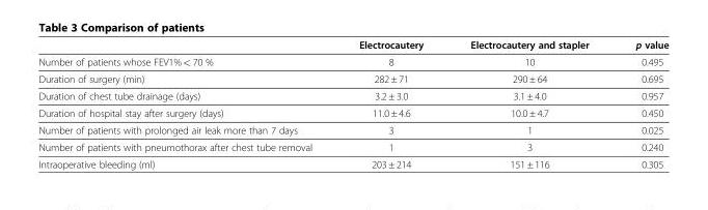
<table><thead><tr><td></td><td>Electrocautery</td><td>Electrocautery and stapler</td><td>p value</td></tr></thead><tbody><tr><td>Number of patients whose FEV1% &lt; 70 %</td><td>8</td><td>10</td><td>0.495</td></tr><tr><td>Duration of surgery (min)</td><td>282 ± 71</td><td>290 ± 64</td><td>0.695</td></tr><tr><td>Duration of chest tube drainage (days)</td><td>3.2 ± 3.0</td><td>3.1 ± 4.0</td><td>0.957</td></tr><tr><td>Duration of hospital stay after surgery (days)</td><td>11.0 ± 4.6</td><td>10.0 ± 4.7</td><td>0.450</td></tr><tr><td>Number of patients with prolonged air leak more than 7 days</td><td>3</td><td>1</td><td>0.025</td></tr><tr><td>Number of patients with pneumothorax after chest tube removal</td><td>1</td><td>3</td><td>0.240</td></tr><tr><td>Intraoperative bleeding (ml)</td><td>203 ± 214</td><td>151 ± 116</td><td>0.305</td></tr></tbody></table>